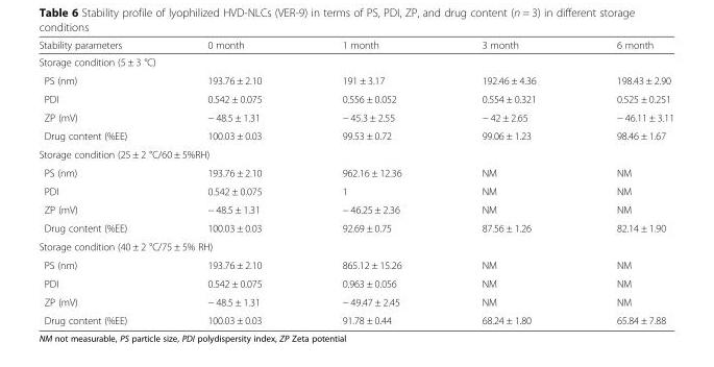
<table><thead><tr><td>Stability parameters</td><td>0 month</td><td>1 month</td><td>3 month</td><td>6 month</td></tr></thead><tbody><tr><td colspan="5">Storage condition (5 ± 3 °C)</td></tr><tr><td>PS (nm)</td><td>193.76 ± 2.10</td><td>191 ± 3.17</td><td>192.46 ± 4.36</td><td>198.43 ± 2.90</td></tr><tr><td>PDI</td><td>0.542 ± 0.075</td><td>0.556 ± 0.052</td><td>0.554 ± 0.321</td><td>0.525 ± 0.251</td></tr><tr><td>ZP (mV)</td><td>− 48.5 ± 1.31</td><td>− 45.3 ± 2.55</td><td>− 42 ± 2.65</td><td>− 46.11 ± 3.11</td></tr><tr><td>Drug content (%EE)</td><td>100.03 ± 0.03</td><td>99.53 ± 0.72</td><td>99.06 ± 1.23</td><td>98.46 ± 1.67</td></tr><tr><td colspan="5">Storage condition (25 ± 2 °C/60 ± 5%RH)</td></tr><tr><td>PS (nm)</td><td>193.76 ± 2.10</td><td>962.16 ± 12.36</td><td>NM</td><td>NM</td></tr><tr><td>PDI</td><td>0.542 ± 0.075</td><td>1</td><td>NM</td><td>NM</td></tr><tr><td>ZP (mV)</td><td>− 48.5 ± 1.31</td><td>− 46.25 ± 2.36</td><td>NM</td><td>NM</td></tr><tr><td>Drug content (%EE)</td><td>100.03 ± 0.03</td><td>92.69 ± 0.75</td><td>87.56 ± 1.26</td><td>82.14 ± 1.90</td></tr><tr><td colspan="5">Storage condition (40 ± 2 °C/75 ± 5% RH)</td></tr><tr><td>PS (nm)</td><td>193.76 ± 2.10</td><td>865.12 ± 15.26</td><td>NM</td><td>NM</td></tr><tr><td>PDI</td><td>0.542 ± 0.075</td><td>0.963 ± 0.056</td><td>NM</td><td>NM</td></tr><tr><td>ZP (mV)</td><td>− 48.5 ± 1.31</td><td>− 49.47 ± 2.45</td><td>NM</td><td>NM</td></tr><tr><td>Drug content (%EE)</td><td>100.03 ± 0.03</td><td>91.78 ± 0.44</td><td>68.24 ± 1.80</td><td>65.84 ± 7.88</td></tr></tbody></table>